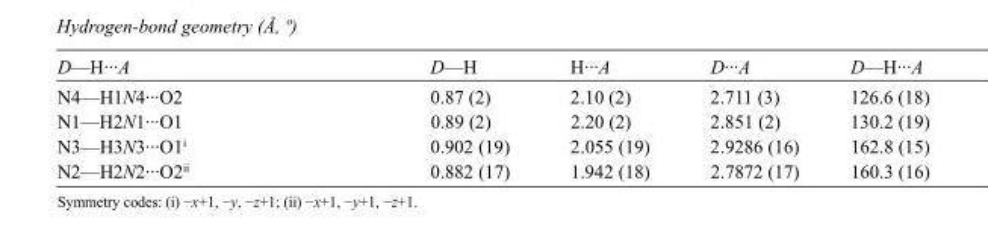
<table><tbody><tr><td>D—H···A</td><td>D—H</td><td>H···A</td><td>D···A</td><td>D—H···A</td></tr><tr><td>N4—H1N4···O2</td><td>0.87 (2)</td><td>2.10 (2)</td><td>2.711 (3)</td><td>126.6 (18)</td></tr><tr><td>N1—H2N1···O1</td><td>0.89 (2)</td><td>2.20 (2)</td><td>2.851 (2)</td><td>130.2 (19)</td></tr><tr><td>N3—H3N3···O1<sup>i</sup></td><td>0.902 (19)</td><td>2.055 (19)</td><td>2.9286 (16)</td><td>162.8 (15)</td></tr><tr><td>N2—H2N2···O2<sup>ii</sup></td><td>0.882 (17)</td><td>1.942 (18)</td><td>2.7872 (17)</td><td>160.3 (16)</td></tr></tbody></table>